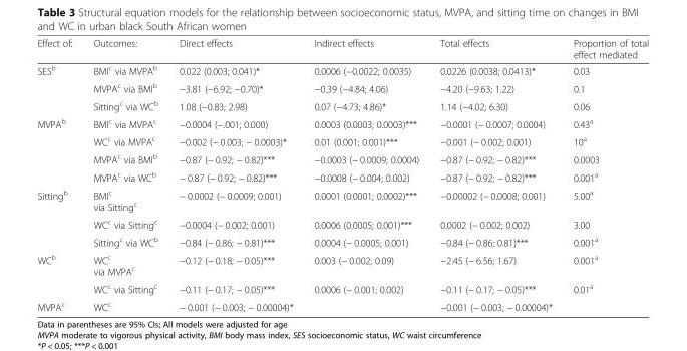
<table><thead><tr><td>Effect of:</td><td>Outcomes:</td><td>Direct effects</td><td>Indirect effects</td><td>Total effects</td><td>Proportion of total effect mediated</td></tr></thead><tbody><tr><td rowspan="3">SES<sup>b</sup></td><td>BMI<sup>c</sup> via MVPA<sup>b</sup></td><td>0.022 (0.003; 0.041)*</td><td>0.0006 (−0.0022; 0.0035)</td><td>0.0226 (0.0038; 0.0413)*</td><td>0.03</td></tr><tr><td>MVPA<sup>c</sup> via BMI<sup>b</sup></td><td>−3.81 (−6.92; −0.70)*</td><td>−0.39 (−4.84; 4.06)</td><td>−4.20 (−9.63; 1.22)</td><td>0.1</td></tr><tr><td>Sitting<sup>c</sup> via WC<sup>b</sup></td><td>1.08 (−0.83; 2.98)</td><td>0.07 (−4.73; 4.86)*</td><td>1.14 (−4.02; 6.30)</td><td>0.06</td></tr><tr><td rowspan="4">MVPA<sup>b</sup></td><td>BMI<sup>c</sup> via MVPA<sup>c</sup></td><td>−0.0004 (−.001; 0.000)</td><td>0.0003 (0.0003; 0.0003)***</td><td>−0.0001 (− 0.0007; 0.0004)</td><td>0.43<sup>a</sup></td></tr><tr><td>WC<sup>c</sup> via MVPA<sup>c</sup></td><td>−0.002 (− 0.003; − 0.0003)*</td><td>0.01 (0.001; 0.001)***</td><td>−0.001 (− 0.002; 0.001)</td><td>10<sup>a</sup></td></tr><tr><td>MVPA<sup>c</sup> via BMI<sup>b</sup></td><td>−0.87 (− 0.92; − 0.82)***</td><td>−0.0003 (− 0.0009; 0.0004)</td><td>−0.87 (− 0.92; − 0.82)***</td><td>0.0003</td></tr><tr><td>MVPA<sup>c</sup> via WC<sup>b</sup></td><td>− 0.87 (− 0.92; − 0.82)***</td><td>−0.0008 (− 0.004; 0.002)</td><td>−0.87 (− 0.92; − 0.82)***</td><td>0.001<sup>a</sup></td></tr><tr><td rowspan="3">Sitting<sup>b</sup></td><td>BMI<sup>c</sup> via Sitting<sup>c</sup></td><td>− 0.0002 (− 0.0009; 0.001)</td><td>0.0001 (0.0001; 0.0002)***</td><td>−0.00002 (− 0.0008; 0.001)</td><td>5.00<sup>a</sup></td></tr><tr><td>WC<sup>c</sup> via Sitting<sup>c</sup></td><td>−0.0004 (− 0.002; 0.001)</td><td>0.0006 (0.0005; 0.001)***</td><td>0.0002 (− 0.002; 0.002)</td><td>3.00</td></tr><tr><td>Sitting<sup>c</sup> via WC<sup>b</sup></td><td>−0.84 (− 0.86; − 0.81)***</td><td>0.0004 (− 0.0005; 0.001)</td><td>−0.84 (− 0.86; 0.81)***</td><td>0.001<sup>a</sup></td></tr><tr><td rowspan="2">WC<sup>b</sup></td><td>WC<sup>c</sup> via MVPA<sup>c</sup></td><td>−0.12 (− 0.18; − 0.05)***</td><td>0.003 (− 0.002; 0.09)</td><td>−2.45 (− 6.56; 1.67)</td><td>0.001<sup>a</sup></td></tr><tr><td>WC<sup>c</sup> via Sitting<sup>c</sup></td><td>−0.11 (− 0.17; − 0.05)***</td><td>0.0006 (− 0.001; 0.002)</td><td>−0.11 (− 0.17; − 0.05)***</td><td>0.01<sup>a</sup></td></tr><tr><td>MVPA<sup>c</sup></td><td>WC<sup>c</sup></td><td>− 0.001 (− 0.003; − 0.00004)*</td><td></td><td>−0.001 (− 0.003; − 0.00004)*</td><td></td></tr></tbody></table>